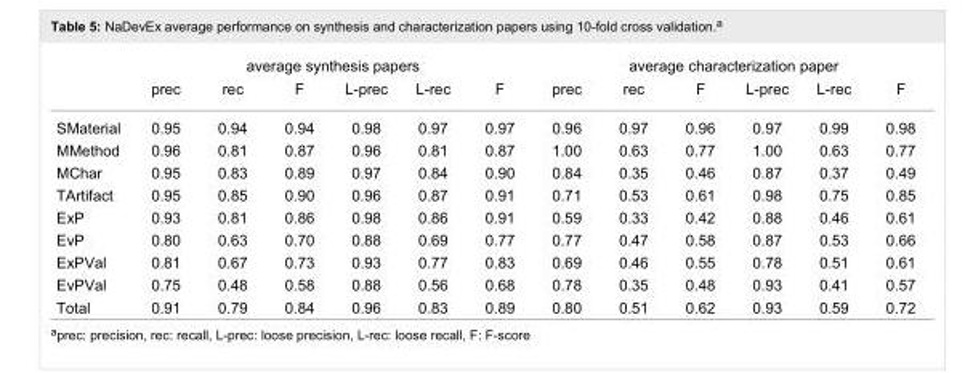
<table><thead><tr><td rowspan="2"></td><td colspan="6">average synthesis papers</td><td colspan="6">average characterization paper</td></tr><tr><td>prec</td><td>rec</td><td>F</td><td>L-prec</td><td>L-rec</td><td>F</td><td>prec</td><td>rec</td><td>F</td><td>L-prec</td><td>L-rec</td><td>F</td></tr></thead><tbody><tr><td>SMaterial</td><td>0.95</td><td>0.94</td><td>0.94</td><td>0.98</td><td>0.97</td><td>0.97</td><td>0.96</td><td>0.97</td><td>0.96</td><td>0.97</td><td>0.99</td><td>0.98</td></tr><tr><td>MMethod</td><td>0.96</td><td>0.81</td><td>0.87</td><td>0.96</td><td>0.81</td><td>0.87</td><td>1.00</td><td>0.63</td><td>0.77</td><td>1.00</td><td>0.63</td><td>0.77</td></tr><tr><td>MChar</td><td>0.95</td><td>0.83</td><td>0.89</td><td>0.97</td><td>0.84</td><td>0.90</td><td>0.84</td><td>0.35</td><td>0.46</td><td>0.87</td><td>0.37</td><td>0.49</td></tr><tr><td>TArtifact</td><td>0.95</td><td>0.85</td><td>0.90</td><td>0.96</td><td>0.87</td><td>0.91</td><td>0.71</td><td>0.53</td><td>0.61</td><td>0.98</td><td>0.75</td><td>0.85</td></tr><tr><td>ExP</td><td>0.93</td><td>0.81</td><td>0.86</td><td>0.98</td><td>0.86</td><td>0.91</td><td>0.59</td><td>0.33</td><td>0.42</td><td>0.88</td><td>0.46</td><td>0.61</td></tr><tr><td>EvP</td><td>0.80</td><td>0.63</td><td>0.70</td><td>0.88</td><td>0.69</td><td>0.77</td><td>0.77</td><td>0.47</td><td>0.58</td><td>0.87</td><td>0.53</td><td>0.66</td></tr><tr><td>ExPVal</td><td>0.81</td><td>0.67</td><td>0.73</td><td>0.93</td><td>0.77</td><td>0.83</td><td>0.69</td><td>0.46</td><td>0.55</td><td>0.78</td><td>0.51</td><td>0.61</td></tr><tr><td>EvPVal</td><td>0.75</td><td>0.48</td><td>0.58</td><td>0.88</td><td>0.56</td><td>0.68</td><td>0.78</td><td>0.35</td><td>0.48</td><td>0.93</td><td>0.41</td><td>0.57</td></tr><tr><td>Total</td><td>0.91</td><td>0.79</td><td>0.84</td><td>0.96</td><td>0.83</td><td>0.89</td><td>0.80</td><td>0.51</td><td>0.62</td><td>0.93</td><td>0.59</td><td>0.72</td></tr></tbody></table>